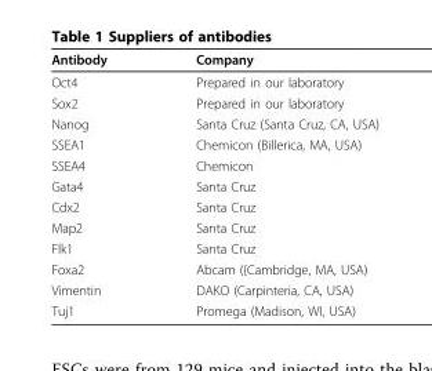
<table><thead><tr><td>Antibody</td><td>Company</td></tr></thead><tbody><tr><td>Oct4</td><td>Prepared in our laboratory</td></tr><tr><td>Sox2</td><td>Prepared in our laboratory</td></tr><tr><td>Nanog</td><td>Santa Cruz (Santa Cruz, CA, USA)</td></tr><tr><td>SSEA1</td><td>Chemicon (Billerica, MA, USA)</td></tr><tr><td>SSEA4</td><td>Chemicon</td></tr><tr><td>Gata4</td><td>Santa Cruz</td></tr><tr><td>Cdx2</td><td>Santa Cruz</td></tr><tr><td>Map2</td><td>Santa Cruz</td></tr><tr><td>Flk1</td><td>Santa Cruz</td></tr><tr><td>Foxa2</td><td>Abcam ({Cambridge, MA, USA)</td></tr><tr><td>Vimentin</td><td>DAKO (Carpinteria, CA, USA)</td></tr><tr><td>Tuj1</td><td>Promega (Madison, WI, USA)</td></tr></tbody></table>